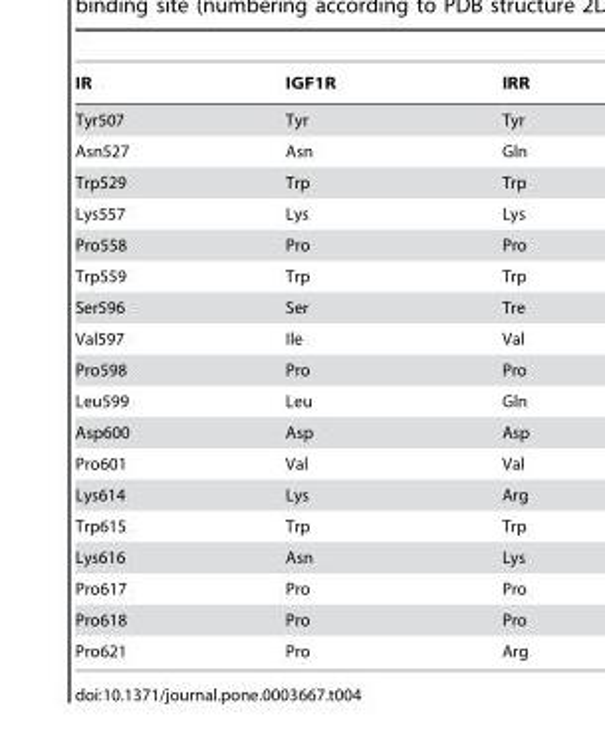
<table><thead><tr><td>IR</td><td>IGF1R</td><td>IRR</td></tr></thead><tbody><tr><td>Tyr507</td><td>Tyr</td><td>Tyr</td></tr><tr><td>Asn527</td><td>Asn</td><td>Gln</td></tr><tr><td>Trp529</td><td>Trp</td><td>Trp</td></tr><tr><td>Lys557</td><td>Lys</td><td>Lys</td></tr><tr><td>Pro558</td><td>Pro</td><td>Pro</td></tr><tr><td>Trp559</td><td>Trp</td><td>Trp</td></tr><tr><td>Ser596</td><td>Ser</td><td>Tre</td></tr><tr><td>Val597</td><td>Ile</td><td>Val</td></tr><tr><td>Pro598</td><td>Pro</td><td>Pro</td></tr><tr><td>Leu599</td><td>Leu</td><td>Gln</td></tr><tr><td>Asp600</td><td>Asp</td><td>Asp</td></tr><tr><td>Pro601</td><td>Val</td><td>Val</td></tr><tr><td>Lys614</td><td>Lys</td><td>Arg</td></tr><tr><td>Trp615</td><td>Trp</td><td>Trp</td></tr><tr><td>Lys616</td><td>Asn</td><td>Lys</td></tr><tr><td>Pro617</td><td>Pro</td><td>Pro</td></tr><tr><td>Pro618</td><td>Pro</td><td>Pro</td></tr><tr><td>Pro621</td><td>Pro</td><td>Arg</td></tr></tbody></table>